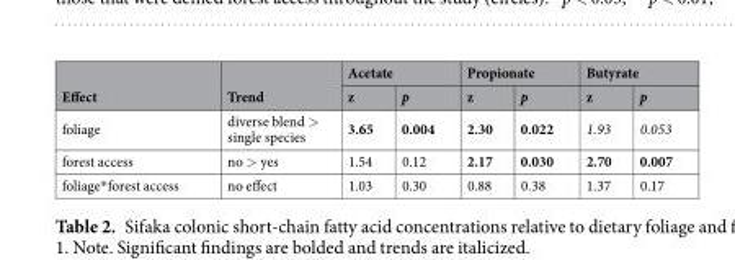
<table><thead><tr><td rowspan="2">Effect</td><td rowspan="2">Trend</td><td colspan="2">Acetate</td><td colspan="2">Propionate</td><td colspan="2">Butyrate</td></tr><tr><td>z</td><td>p</td><td>z</td><td>p</td><td>z</td><td>p</td></tr></thead><tbody><tr><td>foliage</td><td>diverse blend &gt; single species</td><td>3.65</td><td>0.004</td><td>2.30</td><td>0.022</td><td>1.93</td><td>0.053</td></tr><tr><td>forest access</td><td>no &gt; yes</td><td>1.54</td><td>0.12</td><td>2.17</td><td>0.030</td><td>2.70</td><td>0.007</td></tr><tr><td>foliage*forest access</td><td>no effect</td><td>1.03</td><td>0.30</td><td>0.88</td><td>0.38</td><td>1.37</td><td>0.17</td></tr></tbody></table>